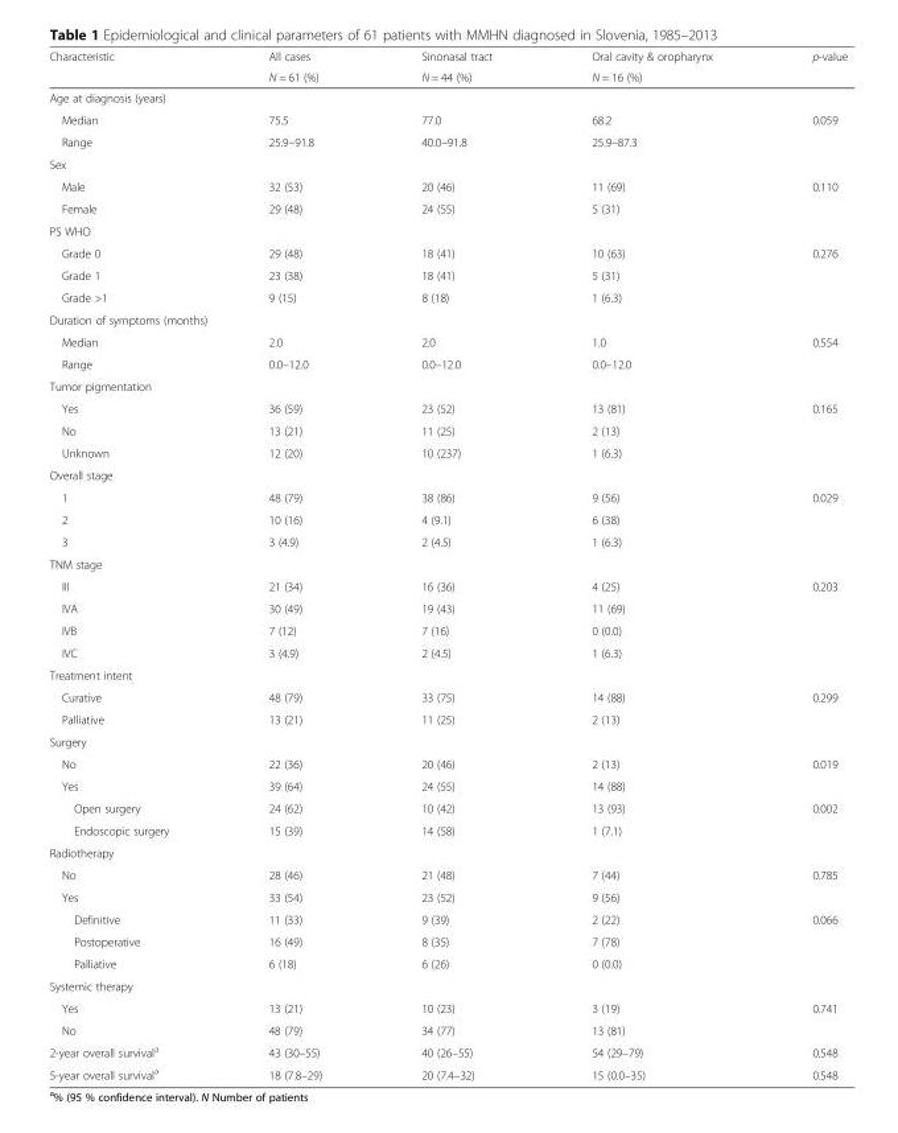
<table><thead><tr><td rowspan="2">Characteristic</td><td rowspan="2">All cases N = 61 (%)</td><td rowspan="2">Sinonasal tract N = 44 (%)</td><td rowspan="2">Oral cavity &amp; oropharynx N = 16 (%)</td><td rowspan="2">p-value</td></tr><tr></tr></thead><tbody><tr><td colspan="5">Age at diagnosis (years)</td></tr><tr><td>Median</td><td>75.5</td><td>77.0</td><td>68.2</td><td>0.059</td></tr><tr><td>Range</td><td>25.9–91.8</td><td>40.0–91.8</td><td>25.9–87.3</td><td></td></tr><tr><td colspan="5">Sex</td></tr><tr><td>Male</td><td>32 (53)</td><td>20 (46)</td><td>11 (69)</td><td>0.110</td></tr><tr><td>Female</td><td>29 (48)</td><td>24 (55)</td><td>5 (31)</td><td></td></tr><tr><td colspan="5">PS WHO</td></tr><tr><td>Grade 0</td><td>29 (48)</td><td>18 (41)</td><td>10 (63)</td><td>0.276</td></tr><tr><td>Grade 1</td><td>23 (38)</td><td>18 (41)</td><td>5 (31)</td><td></td></tr><tr><td>Grade &gt;1</td><td>9 (15)</td><td>8 (18)</td><td>1 (6.3)</td><td></td></tr><tr><td colspan="5">Duration of symptoms (months)</td></tr><tr><td>Median</td><td>2.0</td><td>2.0</td><td>1.0</td><td>0.554</td></tr><tr><td>Range</td><td>0.0–12.0</td><td>0.0–12.0</td><td>0.0–12.0</td><td></td></tr><tr><td colspan="5">Tumor pigmentation</td></tr><tr><td>Yes</td><td>36 (59)</td><td>23 (52)</td><td>13 (81)</td><td>0.165</td></tr><tr><td>No</td><td>13 (21)</td><td>11 (25)</td><td>2 (13)</td><td></td></tr><tr><td>Unknown</td><td>12 (20)</td><td>10 (237)</td><td>1 (6.3)</td><td></td></tr><tr><td colspan="5">Overall stage</td></tr><tr><td>1</td><td>48 (79)</td><td>38 (86)</td><td>9 (56)</td><td>0.029</td></tr><tr><td>2</td><td>10 (16)</td><td>4 (9.1)</td><td>6 (38)</td><td></td></tr><tr><td>3</td><td>3 (4.9)</td><td>2 (4.5)</td><td>1 (6.3)</td><td></td></tr><tr><td colspan="5">TNM stage</td></tr><tr><td>III</td><td>21 (34)</td><td>16 (36)</td><td>4 (25)</td><td>0.203</td></tr><tr><td>IVA</td><td>30 (49)</td><td>19 (43)</td><td>11 (69)</td><td></td></tr><tr><td>IVB</td><td>7 (12)</td><td>7 (16)</td><td>0 (0.0)</td><td></td></tr><tr><td>IVC</td><td>3 (4.9)</td><td>2 (4.5)</td><td>1 (6.3)</td><td></td></tr><tr><td colspan="5">Treatment intent</td></tr><tr><td>Curative</td><td>48 (79)</td><td>33 (75)</td><td>14 (88)</td><td>0.299</td></tr><tr><td>Palliative</td><td>13 (21)</td><td>11 (25)</td><td>2 (13)</td><td></td></tr><tr><td colspan="5">Surgery</td></tr><tr><td>No</td><td>22 (36)</td><td>20 (46)</td><td>2 (13)</td><td>0.019</td></tr><tr><td>Yes</td><td>39 (64)</td><td>24 (55)</td><td>14 (88)</td><td></td></tr><tr><td>Open surgery</td><td>24 (62)</td><td>10 (42)</td><td>13 (93)</td><td>0.002</td></tr><tr><td>Endoscopic surgery</td><td>15 (39)</td><td>14 (58)</td><td>1 (7.1)</td><td></td></tr><tr><td colspan="5">Radiotherapy</td></tr><tr><td>No</td><td>28 (46)</td><td>21 (48)</td><td>7 (44)</td><td>0.785</td></tr><tr><td>Yes</td><td>33 (54)</td><td>23 (52)</td><td>9 (56)</td><td></td></tr><tr><td>Definitive</td><td>11 (33)</td><td>9 (39)</td><td>2 (22)</td><td>0.066</td></tr><tr><td>Postoperative</td><td>16 (49)</td><td>8 (35)</td><td>7 (78)</td><td></td></tr><tr><td>Palliative</td><td>6 (18)</td><td>6 (26)</td><td>0 (0.0)</td><td></td></tr><tr><td colspan="5">Systemic therapy</td></tr><tr><td>Yes</td><td>13 (21)</td><td>10 (23)</td><td>3 (19)</td><td>0.741</td></tr><tr><td>No</td><td>48 (79)</td><td>34 (77)</td><td>13 (81)</td><td></td></tr><tr><td>2-year overall survival<sup>a</sup></td><td>43 (30–55)</td><td>40 (26–55)</td><td>54 (29–79)</td><td>0.548</td></tr><tr><td>5-year overall survival<sup>a</sup></td><td>18 (7.8–29)</td><td>20 (7.4–32)</td><td>15 (0.0–35)</td><td>0.548</td></tr></tbody></table>